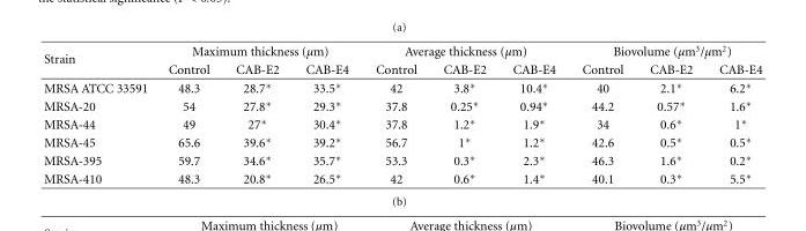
<table><thead><tr><td rowspan="2">Strain</td><td colspan="3">Maximum thickness (µm)</td><td colspan="3">Average thickness (µm)</td><td colspan="3">Biovolume (µm<sup>3</sup>/µm<sup>2</sup>)</td></tr><tr><td>Control</td><td>CAB-E2</td><td>CAB-E4</td><td>Control</td><td>CAB-E2</td><td>CAB-E4</td><td>Control</td><td>CAB-E2</td><td>CAB-E4</td></tr></thead><tbody><tr><td>MRSA ATCC 33591</td><td>48.3</td><td>28.7∗</td><td>33.5∗</td><td>42</td><td>3.8∗</td><td>10.4∗</td><td>40</td><td>2.1∗</td><td>6.2∗</td></tr><tr><td>MRSA-20</td><td>54</td><td>27.8∗</td><td>29.3∗</td><td>37.8</td><td>0.25∗</td><td>0.94∗</td><td>44.2</td><td>0.57∗</td><td>1.6∗</td></tr><tr><td>MRSA-44</td><td>49</td><td>27∗</td><td>30.4∗</td><td>37.8</td><td>1.2∗</td><td>1.9∗</td><td>34</td><td>0.6∗</td><td>1∗</td></tr><tr><td>MRSA-45</td><td>65.6</td><td>39.6∗</td><td>39.2∗</td><td>56.7</td><td>1∗</td><td>1.2∗</td><td>42.6</td><td>0.5∗</td><td>0.5∗</td></tr><tr><td>MRSA-395</td><td>59.7</td><td>34.6∗</td><td>35.7∗</td><td>53.3</td><td>0.3∗</td><td>2.3∗</td><td>46.3</td><td>1.6∗</td><td>0.2∗</td></tr><tr><td>MRSA-410</td><td>48.3</td><td>20.8∗</td><td>26.5∗</td><td>42</td><td>0.6∗</td><td>1.4∗</td><td>40.1</td><td>0.3∗</td><td>5.5∗</td></tr></tbody></table>